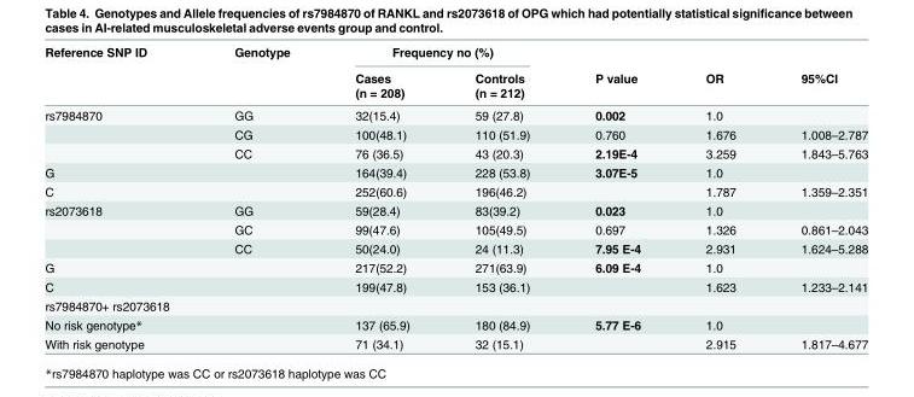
<table><thead><tr><td rowspan="3">Reference SNP ID</td><td rowspan="3">Genotype</td><td colspan="2">Frequency no (%)</td><td rowspan="3">P value</td><td rowspan="3">OR</td><td rowspan="3">95%CI</td></tr><tr><td rowspan="2">Cases (n = 208)</td><td rowspan="2">Controls (n = 212)</td></tr><tr></tr></thead><tbody><tr><td rowspan="3">rs7984870</td><td>GG</td><td>32(15.4)</td><td>59 (27.8)</td><td>0.002</td><td>1.0</td><td></td></tr><tr><td>CG</td><td>100(48.1)</td><td>110 (51.9)</td><td>0.760</td><td>1.676</td><td>1.008–2.787</td></tr><tr><td>CC</td><td>76 (36.5)</td><td>43 (20.3)</td><td>2.19E-4</td><td>3.259</td><td>1.843–5.763</td></tr><tr><td>G</td><td></td><td>164(39.4)</td><td>228 (53.8)</td><td>3.07E-5</td><td>1.0</td><td></td></tr><tr><td>C</td><td></td><td>252(60.6)</td><td>196(46.2)</td><td></td><td>1.787</td><td>1.359–2.351</td></tr><tr><td rowspan="3">rs2073618</td><td>GG</td><td>59(28.4)</td><td>83(39.2)</td><td>0.023</td><td>1.0</td><td></td></tr><tr><td>GC</td><td>99(47.6)</td><td>105(49.5)</td><td>0.697</td><td>1.326</td><td>0.861–2.043</td></tr><tr><td>CC</td><td>50(24.0)</td><td>24 (11.3)</td><td>7.95 E-4</td><td>2.931</td><td>1.624–5.288</td></tr><tr><td>G</td><td></td><td>217(52.2)</td><td>271(63.9)</td><td>6.09 E-4</td><td>1.0</td><td></td></tr><tr><td>C</td><td></td><td>199(47.8)</td><td>153 (36.1)</td><td></td><td>1.623</td><td>1.233–2.141</td></tr><tr><td colspan="7">rs7984870+ rs2073618</td></tr><tr><td>No risk genotype*</td><td></td><td>137 (65.9)</td><td>180 (84.9)</td><td>5.77 E-6</td><td>1.0</td><td></td></tr><tr><td>With risk genotype</td><td></td><td>71 (34.1)</td><td>32 (15.1)</td><td></td><td>2.915</td><td>1.817–4.677</td></tr></tbody></table>